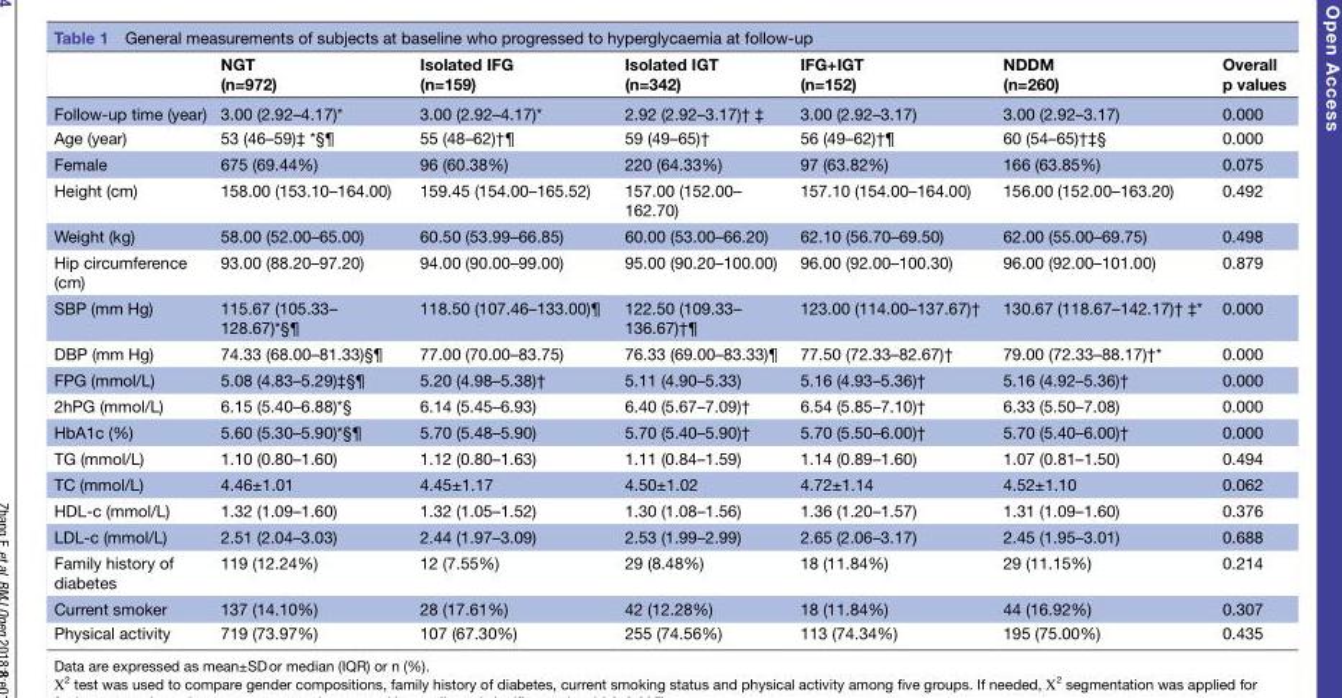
<table><thead><tr><td></td><td>NGT (n=972)</td><td>Isolated IFG (n=159)</td><td>Isolated IGT (n=342)</td><td>IFG+IGT (n=152)</td><td>NDDM (n=260)</td><td>Overall p values</td></tr></thead><tbody><tr><td>Follow-up time (year)</td><td>3.00 (2.92–4.17)*</td><td>3.00 (2.92–4.17)*</td><td>2.92 (2.92–3.17)† ‡</td><td>3.00 (2.92–3.17)</td><td>3.00 (2.92–3.17)</td><td>0.000</td></tr><tr><td>Age (year)</td><td>53 (46–59)‡ *§¶</td><td>55 (48–62)†¶</td><td>59 (49–65)†</td><td>56 (49–62)†¶</td><td>60 (54–65)†‡§</td><td>0.000</td></tr><tr><td>Female</td><td>675 (69.44%)</td><td>96 (60.38%)</td><td>220 (64.33%)</td><td>97 (63.82%)</td><td>166 (63.85%)</td><td>0.075</td></tr><tr><td>Height (cm)</td><td>158.00 (153.10–164.00)</td><td>159.45 (154.00–165.52)</td><td>157.00 (152.00– 162.70)</td><td>157.10 (154.00–164.00)</td><td>156.00 (152.00–163.20)</td><td>0.492</td></tr><tr><td>Weight (kg)</td><td>58.00 (52.00–65.00)</td><td>60.50 (53.99–66.85)</td><td>60.00 (53.00–66.20)</td><td>62.10 (56.70–69.50)</td><td>62.00 (55.00–69.75)</td><td>0.498</td></tr><tr><td>Hip circumference (cm)</td><td>93.00 (88.20–97.20)</td><td>94.00 (90.00–99.00)</td><td>95.00 (90.20–100.00)</td><td>96.00 (92.00–100.30)</td><td>96.00 (92.00–101.00)</td><td>0.879</td></tr><tr><td>SBP (mm Hg)</td><td>115.67 (105.33– 128.67)*§¶</td><td>118.50 (107.46–133.00)¶</td><td>122.50 (109.33– 136.67)†¶</td><td>123.00 (114.00–137.67)†</td><td>130.67 (118.67–142.17)† ‡*</td><td>0.000</td></tr><tr><td>DBP (mm Hg)</td><td>74.33 (68.00–81.33)§¶</td><td>77.00 (70.00–83.75)</td><td>76.33 (69.00–83.33)¶</td><td>77.50 (72.33–82.67)†</td><td>79.00 (72.33–88.17)†*</td><td>0.000</td></tr><tr><td>FPG (mmol/L)</td><td>5.08 (4.83–5.29)‡§¶</td><td>5.20 (4.98–5.38)†</td><td>5.11 (4.90–5.33)</td><td>5.16 (4.93–5.36)†</td><td>5.16 (4.92–5.36)†</td><td>0.000</td></tr><tr><td>2hPG (mmol/L)</td><td>6.15 (5.40–6.88)*§</td><td>6.14 (5.45–6.93)</td><td>6.40 (5.67–7.09)†</td><td>6.54 (5.85–7.10)†</td><td>6.33 (5.50–7.08)</td><td>0.000</td></tr><tr><td>HbA1c (%)</td><td>5.60 (5.30–5.90)*§¶</td><td>5.70 (5.48–5.90)</td><td>5.70 (5.40–5.90)†</td><td>5.70 (5.50–6.00)†</td><td>5.70 (5.40–6.00)†</td><td>0.000</td></tr><tr><td>TG (mmol/L)</td><td>1.10 (0.80–1.60)</td><td>1.12 (0.80–1.63)</td><td>1.11 (0.84–1.59)</td><td>1.14 (0.89–1.60)</td><td>1.07 (0.81–1.50)</td><td>0.494</td></tr><tr><td>TC (mmol/L)</td><td>4.46±1.01</td><td>4.45±1.17</td><td>4.50±1.02</td><td>4.72±1.14</td><td>4.52±1.10</td><td>0.062</td></tr><tr><td>HDL-c (mmol/L)</td><td>1.32 (1.09–1.60)</td><td>1.32 (1.05–1.52)</td><td>1.30 (1.08–1.56)</td><td>1.36 (1.20–1.57)</td><td>1.31 (1.09–1.60)</td><td>0.376</td></tr><tr><td>LDL-c (mmol/L)</td><td>2.51 (2.04–3.03)</td><td>2.44 (1.97–3.09)</td><td>2.53 (1.99–2.99)</td><td>2.65 (2.06–3.17)</td><td>2.45 (1.95–3.01)</td><td>0.688</td></tr><tr><td>Family history of diabetes</td><td>119 (12.24%)</td><td>12 (7.55%)</td><td>29 (8.48%)</td><td>18 (11.84%)</td><td>29 (11.15%)</td><td>0.214</td></tr><tr><td>Current smoker</td><td>137 (14.10%)</td><td>28 (17.61%)</td><td>42 (12.28%)</td><td>18 (11.84%)</td><td>44 (16.92%)</td><td>0.307</td></tr><tr><td>Physical activity</td><td>719 (73.97%)</td><td>107 (67.30%)</td><td>255 (74.56%)</td><td>113 (74.34%)</td><td>195 (75.00%)</td><td>0.435</td></tr></tbody></table>